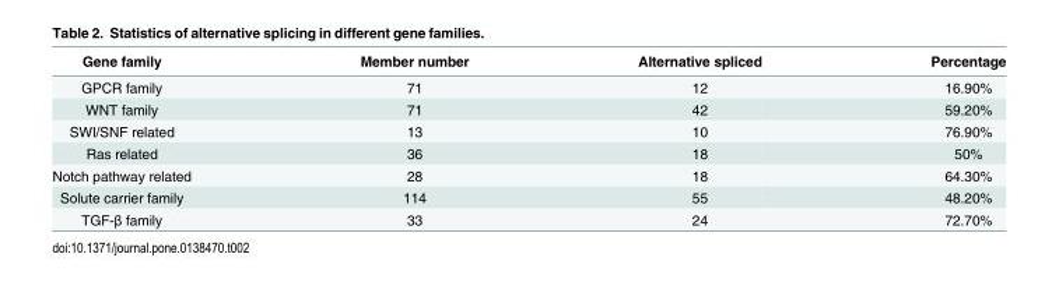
<table><thead><tr><td>Gene family</td><td>Member number</td><td>Alternative spliced</td><td>Percentage</td></tr></thead><tbody><tr><td>GPCR family</td><td>71</td><td>12</td><td>16.90%</td></tr><tr><td>WNT family</td><td>71</td><td>42</td><td>59.20%</td></tr><tr><td>SWI/SNF related</td><td>13</td><td>10</td><td>76.90%</td></tr><tr><td>Ras related</td><td>36</td><td>18</td><td>50%</td></tr><tr><td>Notch pathway related</td><td>28</td><td>18</td><td>64.30%</td></tr><tr><td>Solute carrier family</td><td>114</td><td>55</td><td>48.20%</td></tr><tr><td>TGF-β family</td><td>33</td><td>24</td><td>72.70%</td></tr></tbody></table>